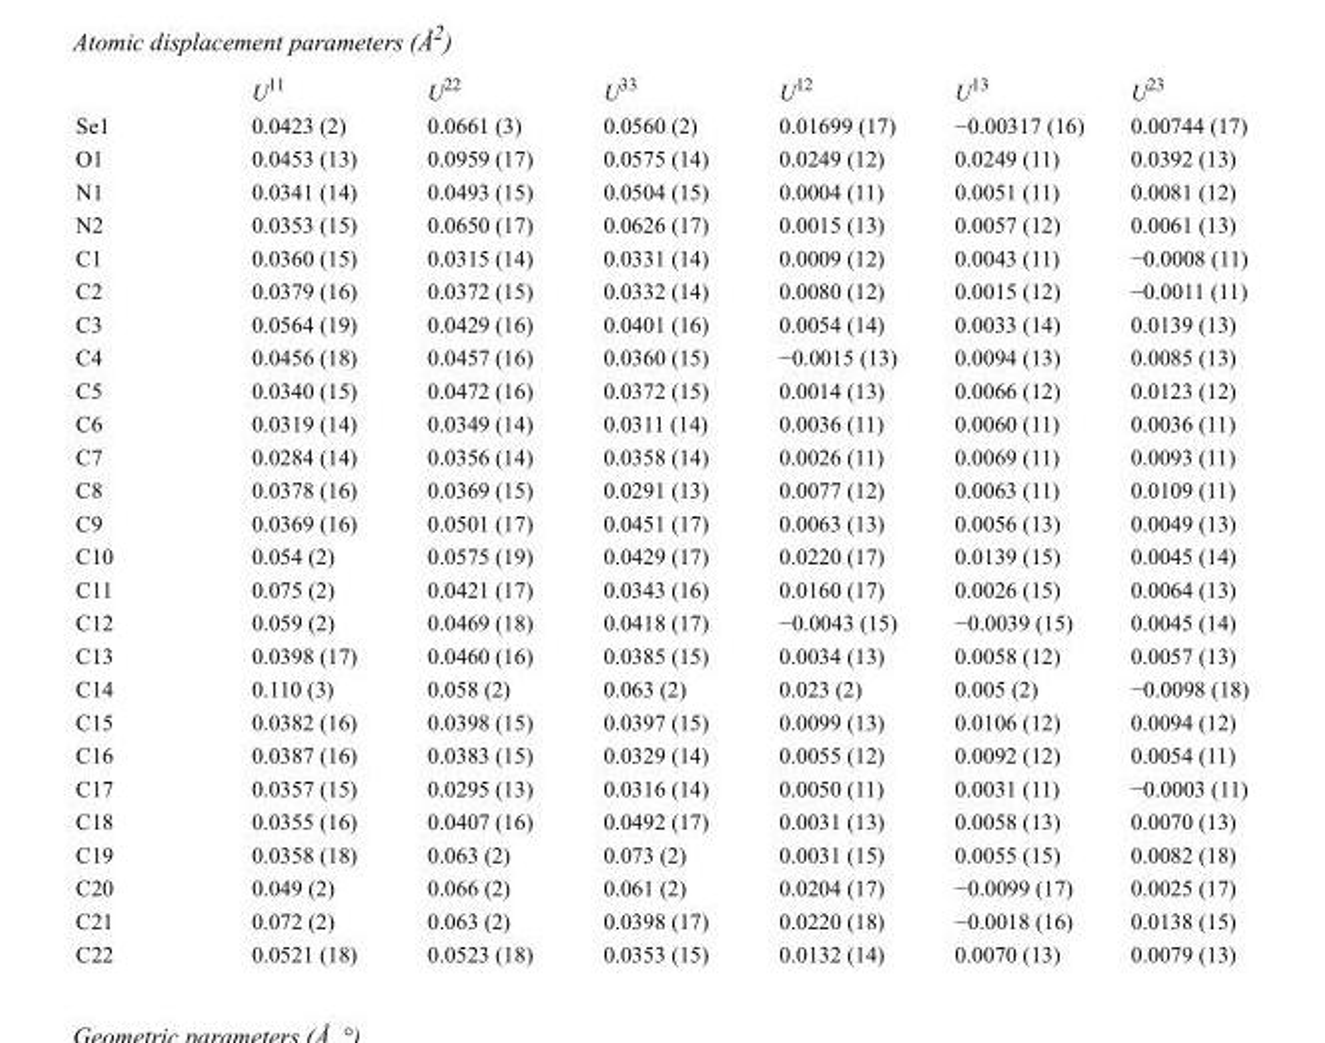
<table><thead><tr><td></td><td>U<sup>11</sup></td><td>U<sup>22</sup></td><td>U<sup>33</sup></td><td>U<sup>12</sup></td><td>U<sup>13</sup></td><td>U<sup>23</sup></td></tr></thead><tbody><tr><td>Se1</td><td>0.0423 (2)</td><td>0.0661 (3)</td><td>0.0560 (2)</td><td>0.01699 (17)</td><td>−0.00317 (16)</td><td>0.00744 (17)</td></tr><tr><td>O1</td><td>0.0453 (13)</td><td>0.0959 (17)</td><td>0.0575 (14)</td><td>0.0249 (12)</td><td>0.0249 (11)</td><td>0.0392 (13)</td></tr><tr><td>N1</td><td>0.0341 (14)</td><td>0.0493 (15)</td><td>0.0504 (15)</td><td>0.0004 (11)</td><td>0.0051 (11)</td><td>0.0081 (12)</td></tr><tr><td>N2</td><td>0.0353 (15)</td><td>0.0650 (17)</td><td>0.0626 (17)</td><td>0.0015 (13)</td><td>0.0057 (12)</td><td>0.0061 (13)</td></tr><tr><td>C1</td><td>0.0360 (15)</td><td>0.0315 (14)</td><td>0.0331 (14)</td><td>0.0009 (12)</td><td>0.0043 (11)</td><td>−0.0008 (11)</td></tr><tr><td>C2</td><td>0.0379 (16)</td><td>0.0372 (15)</td><td>0.0332 (14)</td><td>0.0080 (12)</td><td>0.0015 (12)</td><td>−0.0011 (11)</td></tr><tr><td>C3</td><td>0.0564 (19)</td><td>0.0429 (16)</td><td>0.0401 (16)</td><td>0.0054 (14)</td><td>0.0033 (14)</td><td>0.0139 (13)</td></tr><tr><td>C4</td><td>0.0456 (18)</td><td>0.0457 (16)</td><td>0.0360 (15)</td><td>−0.0015 (13)</td><td>0.0094 (13)</td><td>0.0085 (13)</td></tr><tr><td>C5</td><td>0.0340 (15)</td><td>0.0472 (16)</td><td>0.0372 (15)</td><td>0.0014 (13)</td><td>0.0066 (12)</td><td>0.0123 (12)</td></tr><tr><td>C6</td><td>0.0319 (14)</td><td>0.0349 (14)</td><td>0.0311 (14)</td><td>0.0036 (11)</td><td>0.0060 (11)</td><td>0.0036 (11)</td></tr><tr><td>C7</td><td>0.0284 (14)</td><td>0.0356 (14)</td><td>0.0358 (14)</td><td>0.0026 (11)</td><td>0.0069 (11)</td><td>0.0093 (11)</td></tr><tr><td>C8</td><td>0.0378 (16)</td><td>0.0369 (15)</td><td>0.0291 (13)</td><td>0.0077 (12)</td><td>0.0063 (11)</td><td>0.0109 (11)</td></tr><tr><td>C9</td><td>0.0369 (16)</td><td>0.0501 (17)</td><td>0.0451 (17)</td><td>0.0063 (13)</td><td>0.0056 (13)</td><td>0.0049 (13)</td></tr><tr><td>C10</td><td>0.054 (2)</td><td>0.0575 (19)</td><td>0.0429 (17)</td><td>0.0220 (17)</td><td>0.0139 (15)</td><td>0.0045 (14)</td></tr><tr><td>C11</td><td>0.075 (2)</td><td>0.0421 (17)</td><td>0.0343 (16)</td><td>0.0160 (17)</td><td>0.0026 (15)</td><td>0.0064 (13)</td></tr><tr><td>C12</td><td>0.059 (2)</td><td>0.0469 (18)</td><td>0.0418 (17)</td><td>−0.0043 (15)</td><td>−0.0039 (15)</td><td>0.0045 (14)</td></tr><tr><td>C13</td><td>0.0398 (17)</td><td>0.0460 (16)</td><td>0.0385 (15)</td><td>0.0034 (13)</td><td>0.0058 (12)</td><td>0.0057 (13)</td></tr><tr><td>C14</td><td>0.110 (3)</td><td>0.058 (2)</td><td>0.063 (2)</td><td>0.023 (2)</td><td>0.005 (2)</td><td>−0.0098 (18)</td></tr><tr><td>C15</td><td>0.0382 (16)</td><td>0.0398 (15)</td><td>0.0397 (15)</td><td>0.0099 (13)</td><td>0.0106 (12)</td><td>0.0094 (12)</td></tr><tr><td>C16</td><td>0.0387 (16)</td><td>0.0383 (15)</td><td>0.0329 (14)</td><td>0.0055 (12)</td><td>0.0092 (12)</td><td>0.0054 (11)</td></tr><tr><td>C17</td><td>0.0357 (15)</td><td>0.0295 (13)</td><td>0.0316 (14)</td><td>0.0050 (11)</td><td>0.0031 (11)</td><td>−0.0003 (11)</td></tr><tr><td>C18</td><td>0.0355 (16)</td><td>0.0407 (16)</td><td>0.0492 (17)</td><td>0.0031 (13)</td><td>0.0058 (13)</td><td>0.0070 (13)</td></tr><tr><td>C19</td><td>0.0358 (18)</td><td>0.063 (2)</td><td>0.073 (2)</td><td>0.0031 (15)</td><td>0.0055 (15)</td><td>0.0082 (18)</td></tr><tr><td>C20</td><td>0.049 (2)</td><td>0.066 (2)</td><td>0.061 (2)</td><td>0.0204 (17)</td><td>−0.0099 (17)</td><td>0.0025 (17)</td></tr><tr><td>C21</td><td>0.072 (2)</td><td>0.063 (2)</td><td>0.0398 (17)</td><td>0.0220 (18)</td><td>−0.0018 (16)</td><td>0.0138 (15)</td></tr><tr><td>C22</td><td>0.0521 (18)</td><td>0.0523 (18)</td><td>0.0353 (15)</td><td>0.0132 (14)</td><td>0.0070 (13)</td><td>0.0079 (13)</td></tr></tbody></table>